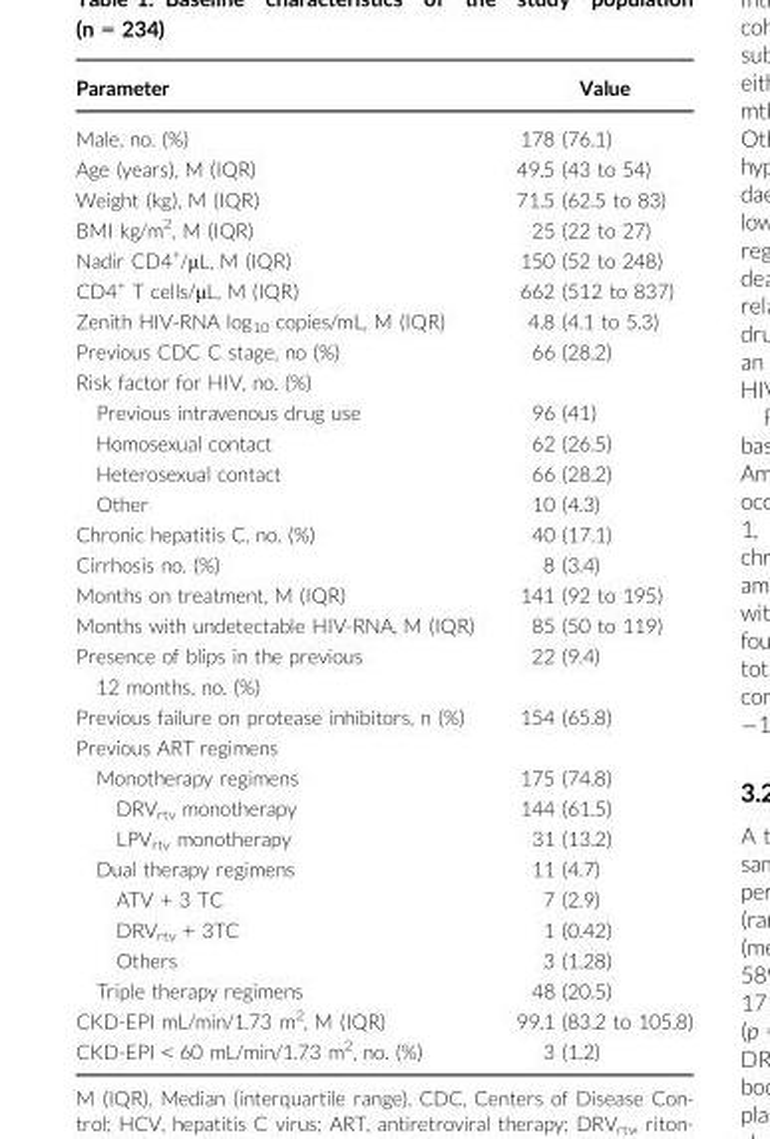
<table><thead><tr><td>Parameter</td><td>Value</td></tr></thead><tbody><tr><td>Male, no. (%)</td><td>178 (76.1)</td></tr><tr><td>Age (years), M (IQR)</td><td>49.5 (43 to 54)</td></tr><tr><td>Weight (kg), M (IQR)</td><td>71.5 (62.5 to 83)</td></tr><tr><td>BMI kg/m<sup>2</sup>, M (IQR)</td><td>25 (22 to 27)</td></tr><tr><td>Nadir CD4<sup>+</sup>/μL, M (IQR)</td><td>150 (52 to 248)</td></tr><tr><td>CD4<sup>+</sup> T cells/μL, M (IQR)</td><td>662 (512 to 837)</td></tr><tr><td>Zenith HIV-RNA log<sub>10</sub> copies/mL, M (IQR)</td><td>4.8 (4.1 to 5.3)</td></tr><tr><td>Previous CDC C stage, no (%)</td><td>66 (28.2)</td></tr><tr><td colspan="2">Risk factor for HIV, no. (%)</td></tr><tr><td>Previous intravenous drug use</td><td>96 (41)</td></tr><tr><td>Homosexual contact</td><td>62 (26.5)</td></tr><tr><td>Heterosexual contact</td><td>66 (28.2)</td></tr><tr><td>Other</td><td>10 (4.3)</td></tr><tr><td>Chronic hepatitis C, no. (%)</td><td>40 (17.1)</td></tr><tr><td>Cirrhosis no. (%)</td><td>8 (3.4)</td></tr><tr><td>Months on treatment, M (IQR)</td><td>141 (92 to 195)</td></tr><tr><td>Months with undetectable HIV-RNA, M (IQR)</td><td>85 (50 to 119)</td></tr><tr><td>Presence of blips in the previous 12 months, no. (%)</td><td>22 (9.4)</td></tr><tr><td>Previous failure on protease inhibitors, n (%)</td><td>154 (65.8)</td></tr><tr><td colspan="2">Previous ART regimens</td></tr><tr><td>Monotherapy regimens</td><td>175 (74.8)</td></tr><tr><td>DRV<sub>rtv</sub> monotherapy</td><td>144 (61.5)</td></tr><tr><td>LPV<sub>rtv</sub> monotherapy</td><td>31 (13.2)</td></tr><tr><td>Dual therapy regimens</td><td>11 (4.7)</td></tr><tr><td>ATV + 3 TC</td><td>7 (2.9)</td></tr><tr><td>DRV<sub>rtv</sub> + 3TC</td><td>1 (0.42)</td></tr><tr><td>Others</td><td>3 (1.28)</td></tr><tr><td>Triple therapy regimens</td><td>48 (20.5)</td></tr><tr><td>CKD-EPI mL/min/1.73 m<sup>2</sup>, M (IQR)</td><td>99.1 (83.2 to 105.8)</td></tr><tr><td>CKD-EPI &lt; 60 mL/min/1.73 m<sup>2</sup>, no. (%)</td><td>3 (1.2)</td></tr></tbody></table>